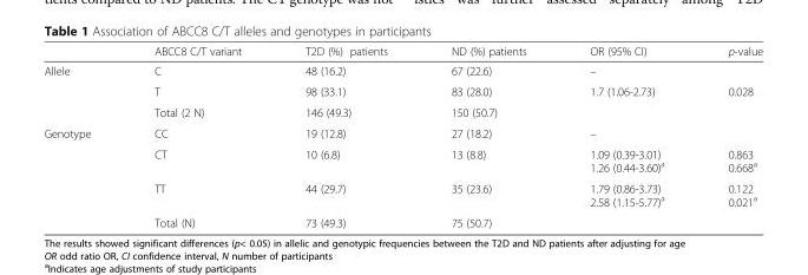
<table><thead><tr><td></td><td>ABCC8 C/T variant</td><td>T2D (%) patients</td><td>ND (%) patients</td><td>OR (95% CI)</td><td>p-value</td></tr></thead><tbody><tr><td rowspan="3">Allele</td><td>C</td><td>48 (16.2)</td><td>67 (22.6)</td><td>–</td><td></td></tr><tr><td>T</td><td>98 (33.1)</td><td>83 (28.0)</td><td>1.7 (1.06-2.73)</td><td>0.028</td></tr><tr><td>Total (2 N)</td><td>146 (49.3)</td><td>150 (50.7)</td><td></td><td></td></tr><tr><td rowspan="4">Genotype</td><td>CC</td><td>19 (12.8)</td><td>27 (18.2)</td><td>–</td><td></td></tr><tr><td>CT</td><td>10 (6.8)</td><td>13 (8.8)</td><td>1.09 (0.39-3.01) 1.26 (0.44-3.60)<sup>a</sup></td><td>0.863 0.668<sup>a</sup></td></tr><tr><td>TT</td><td>44 (29.7)</td><td>35 (23.6)</td><td>1.79 (0.86-3.73) 2.58 (1.15-5.77)<sup>a</sup></td><td>0.122 0.021<sup>a</sup></td></tr><tr><td>Total (N)</td><td>73 (49.3)</td><td>75 (50.7)</td><td></td><td></td></tr></tbody></table>